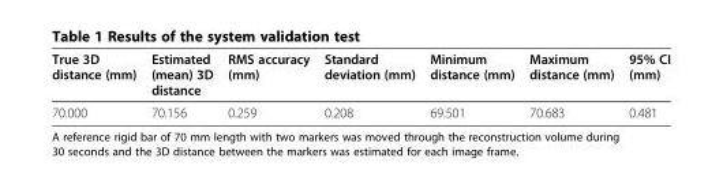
<table><thead><tr><td>True 3D distance (mm)</td><td>Estimated (mean) 3D distance</td><td>RMS accuracy (mm)</td><td>Standard deviation (mm)</td><td>Minimum distance (mm)</td><td>Maximum distance (mm)</td><td>95% CI (mm)</td></tr></thead><tbody><tr><td>70.000</td><td>70.156</td><td>0.259</td><td>0.208</td><td>69.501</td><td>70.683</td><td>0.481</td></tr></tbody></table>